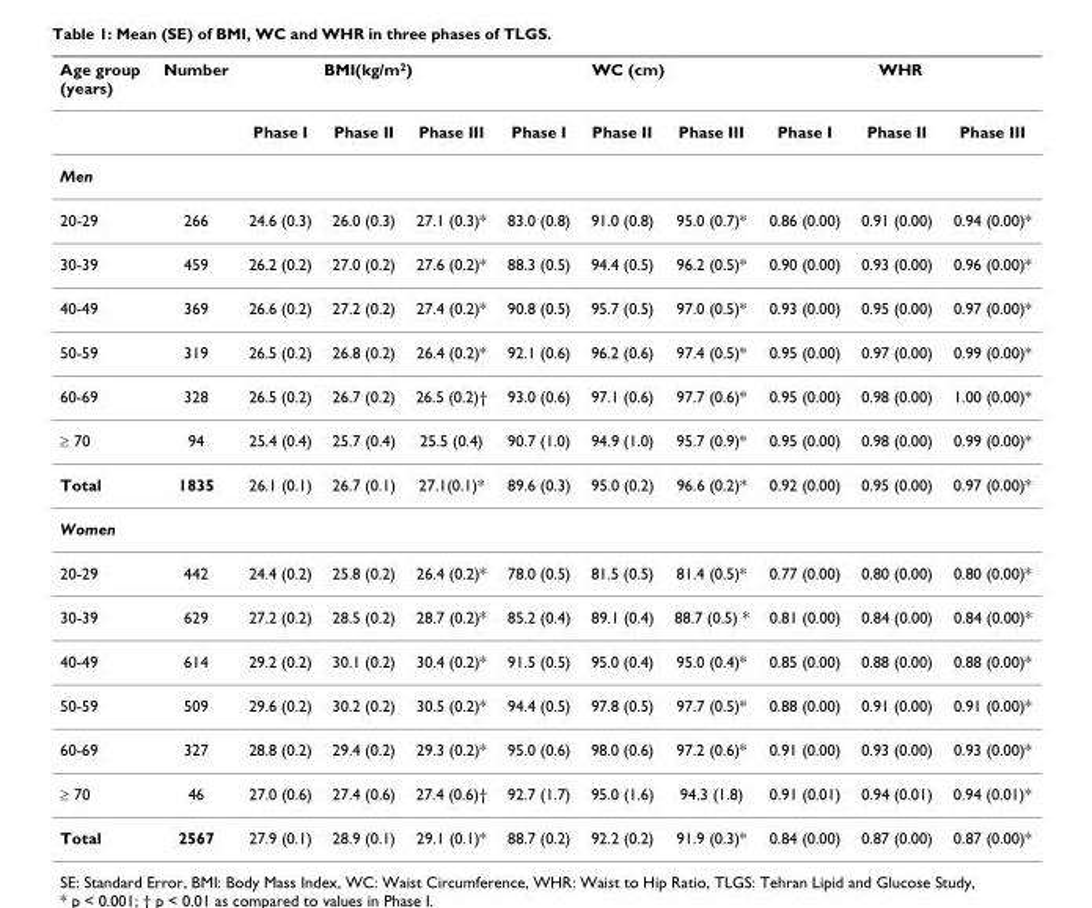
<table><thead><tr><td rowspan="2">Age group (years)</td><td rowspan="2">Number</td><td colspan="3">BMI(kg/m<sup>2</sup>)</td><td colspan="3">WC (cm)</td><td colspan="3">WHR</td></tr><tr><td>Phase I</td><td>Phase II</td><td>Phase III</td><td>Phase I</td><td>Phase II</td><td>Phase III</td><td>Phase I</td><td>Phase II</td><td>Phase III</td></tr></thead><tbody><tr><td colspan="11">Men</td></tr><tr><td>20-29</td><td>266</td><td>24.6 (0.3)</td><td>26.0 (0.3)</td><td>27.1 (0.3)*</td><td>83.0 (0.8)</td><td>91.0 (0.8)</td><td>95.0 (0.7)*</td><td>0.86 (0.00)</td><td>0.91 (0.00)</td><td>0.94 (0.00)*</td></tr><tr><td>30-39</td><td>459</td><td>26.2 (0.2)</td><td>27.0 (0.2)</td><td>27.6 (0.2)*</td><td>88.3 (0.5)</td><td>94.4 (0.5)</td><td>96.2 (0.5)*</td><td>0.90 (0.00)</td><td>0.93 (0.00)</td><td>0.96 (0.00)*</td></tr><tr><td>40-49</td><td>369</td><td>26.6 (0.2)</td><td>27.2 (0.2)</td><td>27.4 (0.2)*</td><td>90.8 (0.5)</td><td>95.7 (0.5)</td><td>97.0 (0.5)*</td><td>0.93 (0.00)</td><td>0.95 (0.00)</td><td>0.97 (0.00)*</td></tr><tr><td>50-59</td><td>319</td><td>26.5 (0.2)</td><td>26.8 (0.2)</td><td>26.4 (0.2)*</td><td>92.1 (0.6)</td><td>96.2 (0.6)</td><td>97.4 (0.5)*</td><td>0.95 (0.00)</td><td>0.97 (0.00)</td><td>0.99 (0.00)*</td></tr><tr><td>60-69</td><td>328</td><td>26.5 (0.2)</td><td>26.7 (0.2)</td><td>26.5 (0.2)†</td><td>93.0 (0.6)</td><td>97.1 (0.6)</td><td>97.7 (0.6)*</td><td>0.95 (0.00)</td><td>0.98 (0.00)</td><td>1.00 (0.00)*</td></tr><tr><td>≥ 70</td><td>94</td><td>25.4 (0.4)</td><td>25.7 (0.4)</td><td>25.5 (0.4)</td><td>90.7 (1.0)</td><td>94.9 (1.0)</td><td>95.7 (0.9)*</td><td>0.95 (0.00)</td><td>0.98 (0.00)</td><td>0.99 (0.00)*</td></tr><tr><td>Total</td><td>1835</td><td>26.1 (0.1)</td><td>26.7 (0.1)</td><td>27.1(0.1)*</td><td>89.6 (0.3)</td><td>95.0 (0.2)</td><td>96.6 (0.2)*</td><td>0.92 (0.00)</td><td>0.95 (0.00)</td><td>0.97 (0.00)*</td></tr><tr><td colspan="11">Women</td></tr><tr><td>20-29</td><td>442</td><td>24.4 (0.2)</td><td>25.8 (0.2)</td><td>26.4 (0.2)*</td><td>78.0 (0.5)</td><td>81.5 (0.5)</td><td>81.4 (0.5)*</td><td>0.77 (0.00)</td><td>0.80 (0.00)</td><td>0.80 (0.00)*</td></tr><tr><td>30-39</td><td>629</td><td>27.2 (0.2)</td><td>28.5 (0.2)</td><td>28.7 (0.2)*</td><td>85.2 (0.4)</td><td>89.1 (0.4)</td><td>88.7 (0.5) *</td><td>0.81 (0.00)</td><td>0.84 (0.00)</td><td>0.84 (0.00)*</td></tr><tr><td>40-49</td><td>614</td><td>29.2 (0.2)</td><td>30.1 (0.2)</td><td>30.4 (0.2)*</td><td>91.5 (0.5)</td><td>95.0 (0.4)</td><td>95.0 (0.4)*</td><td>0.85 (0.00)</td><td>0.88 (0.00)</td><td>0.88 (0.00)*</td></tr><tr><td>50-59</td><td>509</td><td>29.6 (0.2)</td><td>30.2 (0.2)</td><td>30.5 (0.2)*</td><td>94.4 (0.5)</td><td>97.8 (0.5)</td><td>97.7 (0.5)*</td><td>0.88 (0.00)</td><td>0.91 (0.00)</td><td>0.91 (0.00)*</td></tr><tr><td>60-69</td><td>327</td><td>28.8 (0.2)</td><td>29.4 (0.2)</td><td>29.3 (0.2)*</td><td>95.0 (0.6)</td><td>98.0 (0.6)</td><td>97.2 (0.6)*</td><td>0.91 (0.00)</td><td>0.93 (0.00)</td><td>0.93 (0.00)*</td></tr><tr><td>≥ 70</td><td>46</td><td>27.0 (0.6)</td><td>27.4 (0.6)</td><td>27.4 (0.6)†</td><td>92.7 (1.7)</td><td>95.0 (1.6)</td><td>94.3 (1.8)</td><td>0.91 (0.01)</td><td>0.94 (0.01)</td><td>0.94 (0.01)*</td></tr><tr><td>Total</td><td>2567</td><td>27.9 (0.1)</td><td>28.9 (0.1)</td><td>29.1 (0.1)*</td><td>88.7 (0.2)</td><td>92.2 (0.2)</td><td>91.9 (0.3)*</td><td>0.84 (0.00)</td><td>0.87 (0.00)</td><td>0.87 (0.00)*</td></tr></tbody></table>